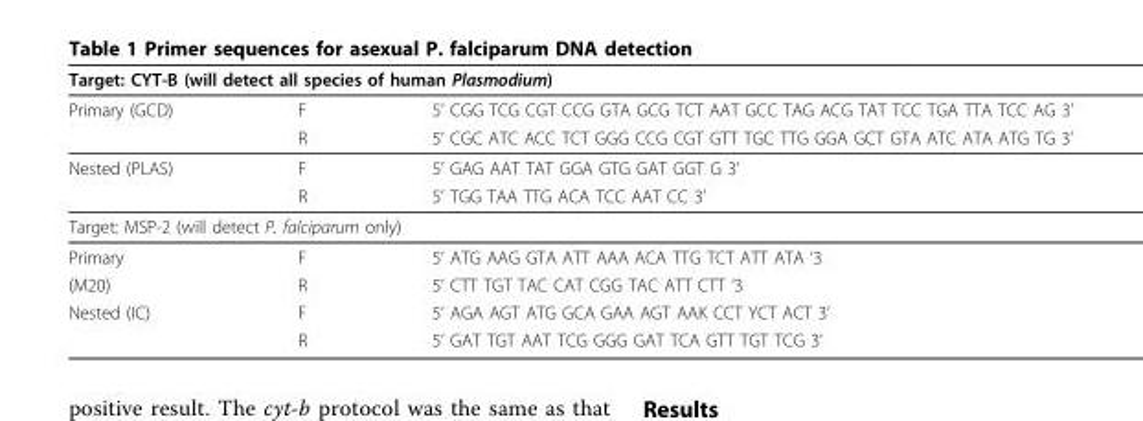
<table><thead><tr><td colspan="3">Target: CYT-B (will detect all species of human Plasmodium)</td></tr><tr><td>Primary (GCD)</td><td>F</td><td>5’ CGG TCG CGT CCG GTA GCG TCT AAT GCC TAG ACG TAT TCC TGA TTA TCC AG 3’</td></tr></thead><tbody><tr><td></td><td>R</td><td>5’ CGC ATC ACC TCT GGG CCG CGT GTT TGC TTG GGA GCT GTA ATC ATA ATG TG 3’</td></tr><tr><td rowspan="2">Nested (PLAS)</td><td>F</td><td>5’ GAG AAT TAT GGA GTG GAT GGT G 3’</td></tr><tr><td>R</td><td>5’ TGG TAA TTG ACA TCC AAT CC 3’</td></tr><tr><td colspan="3">Target: MSP-2 (will detect P. falciparum only)</td></tr><tr><td>Primary</td><td>F</td><td>5’ ATG AAG GTA ATT AAA ACA TTG TCT ATT ATA ‘3</td></tr><tr><td>(M20)</td><td>R</td><td>5’ CTT TGT TAC CAT CGG TAC ATT CTT ‘3</td></tr><tr><td rowspan="2">Nested (IC)</td><td>F</td><td>5’ AGA AGT ATG GCA GAA AGT AAK CCT YCT ACT 3’</td></tr><tr><td>R</td><td>5’ GAT TGT AAT TCG GGG GAT TCA GTT TGT TCG 3’</td></tr></tbody></table>